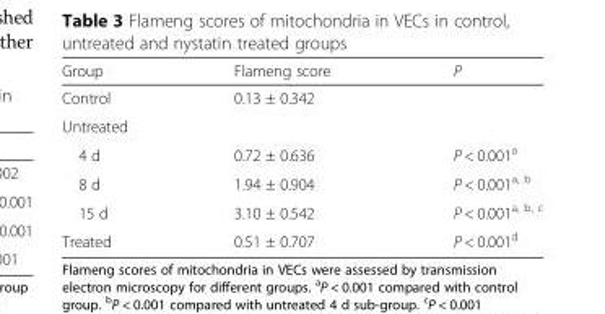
<table><thead><tr><td>Group</td><td>Flameng score</td><td>P</td></tr></thead><tbody><tr><td>Control</td><td>0.13 ± 0.342</td><td></td></tr><tr><td colspan="3">Untreated</td></tr><tr><td>4 d</td><td>0.72 ± 0.636</td><td>P &lt; 0.001<sup>a</sup></td></tr><tr><td>8 d</td><td>1.94 ± 0.904</td><td>P &lt; 0.001<sup>a, b</sup></td></tr><tr><td>15 d</td><td>3.10 ± 0.542</td><td>P &lt; 0.001<sup>a, b, c</sup></td></tr><tr><td>Treated</td><td>0.51 ± 0.707</td><td>P &lt; 0.001<sup>d</sup></td></tr></tbody></table>